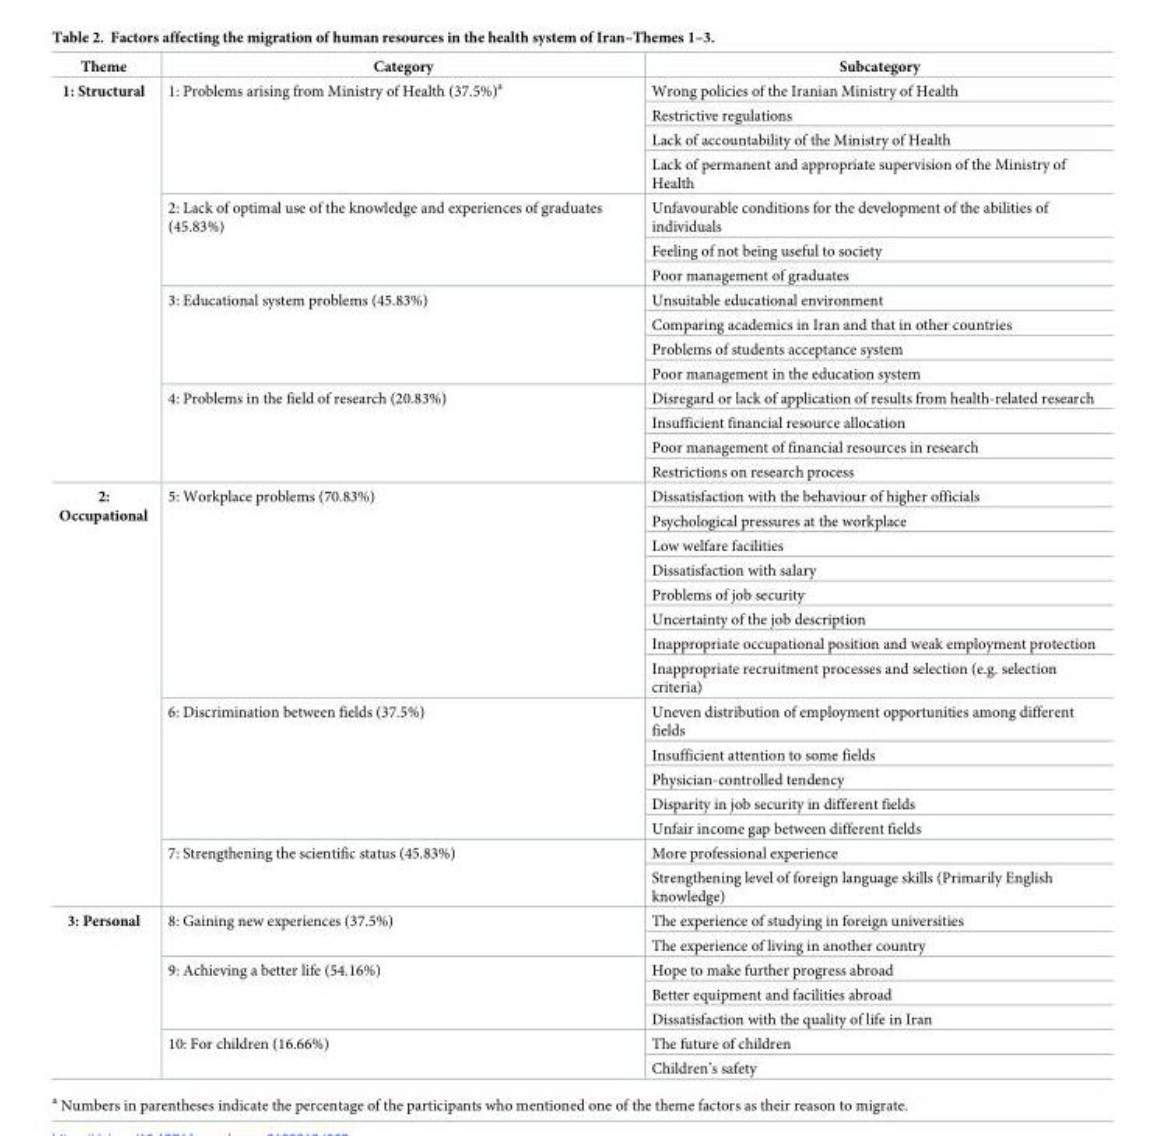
<table><thead><tr><td>Theme</td><td>Category</td><td>Subcategory</td></tr></thead><tbody><tr><td rowspan="15">1: Structural</td><td rowspan="4">1: Problems arising from Ministry of Health (37.5%)<sup>a</sup></td><td>Wrong policies of the Iranian Ministry of Health</td></tr><tr><td>Restrictive regulations</td></tr><tr><td>Lack of accountability of the Ministry of Health</td></tr><tr><td>Lack of permanent and appropriate supervision of the Ministry of Health</td></tr><tr><td rowspan="3">2: Lack of optimal use of the knowledge and experiences of graduates (45.83%)</td><td>Unfavourable conditions for the development of the abilities of individuals</td></tr><tr><td>Feeling of not being useful to society</td></tr><tr><td>Poor management of graduates</td></tr><tr><td rowspan="4">3: Educational system problems (45.83%)</td><td>Unsuitable educational environment</td></tr><tr><td>Comparing academics in Iran and that in other countries</td></tr><tr><td>Problems of students acceptance system</td></tr><tr><td>Poor management in the education system</td></tr><tr><td rowspan="4">4: Problems in the field of research (20.83%)</td><td>Disregard or lack of application of results from health-related research</td></tr><tr><td>Insufficient financial resource allocation</td></tr><tr><td>Poor management of financial resources in research</td></tr><tr><td>Restrictions on research process</td></tr><tr><td rowspan="15">2: Occupational</td><td rowspan="8">5: Workplace problems (70.83%)</td><td>Dissatisfaction with the behaviour of higher officials</td></tr><tr><td>Psychological pressures at the workplace</td></tr><tr><td>Low welfare facilities</td></tr><tr><td>Dissatisfaction with salary</td></tr><tr><td>Problems of job security</td></tr><tr><td>Uncertainty of the job description</td></tr><tr><td>Inappropriate occupational position and weak employment protection</td></tr><tr><td>Inappropriate recruitment processes and selection (e.g. selection criteria)</td></tr><tr><td rowspan="5">6: Discrimination between fields (37.5%)</td><td>Uneven distribution of employment opportunities among different fields</td></tr><tr><td>Insufficient attention to some fields</td></tr><tr><td>Physician-controlled tendency</td></tr><tr><td>Disparity in job security in different fields</td></tr><tr><td>Unfair income gap between different fields</td></tr><tr><td rowspan="2">7: Strengthening the scientific status (45.83%)</td><td>More professional experience</td></tr><tr><td>Strengthening level of foreign language skills (Primarily English knowledge)</td></tr><tr><td rowspan="7">3: Personal</td><td rowspan="2">8: Gaining new experiences (37.5%)</td><td>The experience of studying in foreign universities</td></tr><tr><td>The experience of living in another country</td></tr><tr><td rowspan="3">9: Achieving a better life (54.16%)</td><td>Hope to make further progress abroad</td></tr><tr><td>Better equipment and facilities abroad</td></tr><tr><td>Dissatisfaction with the quality of life in Iran</td></tr><tr><td rowspan="2">10: For children (16.66%)</td><td>The future of children</td></tr><tr><td>Children’s safety</td></tr></tbody></table>